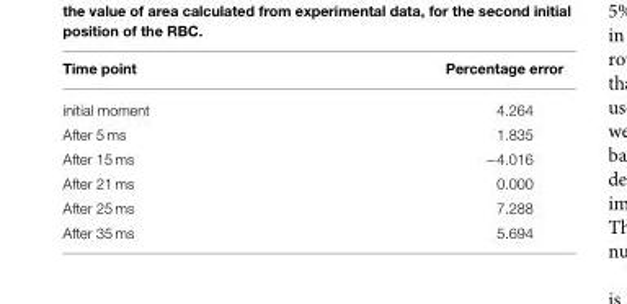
<table><thead><tr><td>Time point</td><td>Percentage error</td></tr></thead><tbody><tr><td>initial moment</td><td>4.264</td></tr><tr><td>After 5 ms</td><td>1.835</td></tr><tr><td>After 15 ms</td><td>−4.016</td></tr><tr><td>After 21 ms</td><td>0.000</td></tr><tr><td>After 25 ms</td><td>7.288</td></tr><tr><td>After 35 ms</td><td>5.694</td></tr></tbody></table>